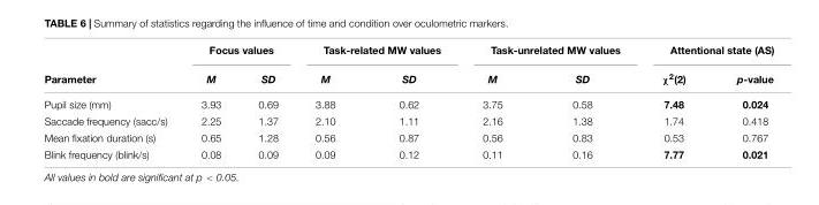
<table><thead><tr><td rowspan="2">Parameter</td><td colspan="2">Focus values</td><td colspan="2">Task-related MW values</td><td colspan="2">Task-unrelated MW values</td><td colspan="2">Attentional state (AS)</td></tr><tr><td>M</td><td>SD</td><td>M</td><td>SD</td><td>M</td><td>SD</td><td>χ<sup>2</sup>(2)</td><td>p-value</td></tr></thead><tbody><tr><td>Pupil size (mm)</td><td>3.93</td><td>0.69</td><td>3.88</td><td>0.62</td><td>3.75</td><td>0.58</td><td>7.48</td><td>0.024</td></tr><tr><td>Saccade frequency (sacc/s)</td><td>2.25</td><td>1.37</td><td>2.10</td><td>1.11</td><td>2.16</td><td>1.38</td><td>1.74</td><td>0.418</td></tr><tr><td>Mean fixation duration (s)</td><td>0.65</td><td>1.28</td><td>0.56</td><td>0.87</td><td>0.56</td><td>0.83</td><td>0.53</td><td>0.767</td></tr><tr><td>Blink frequency (blink/s)</td><td>0.08</td><td>0.09</td><td>0.09</td><td>0.12</td><td>0.11</td><td>0.16</td><td>7.77</td><td>0.021</td></tr></tbody></table>